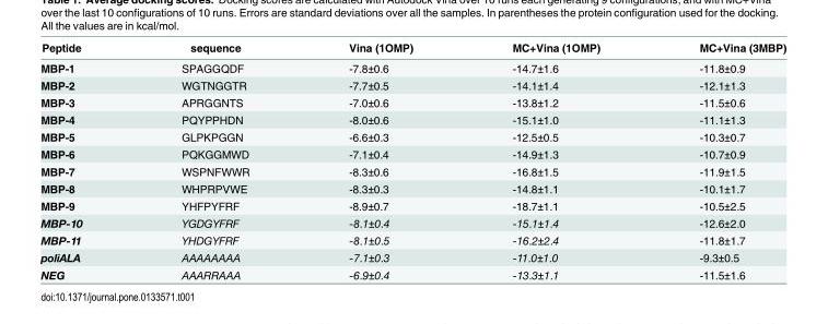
<table><thead><tr><td>Peptide</td><td>sequence</td><td>Vina (1OMP)</td><td>MC+Vina (1OMP)</td><td>MC+Vina (3MBP)</td></tr></thead><tbody><tr><td>MBP-1</td><td>SPAGGQDF</td><td>-7.8±0.6</td><td>-14.7±1.6</td><td>-11.8±0.9</td></tr><tr><td>MBP-2</td><td>WGTNGGTR</td><td>-7.7±0.5</td><td>-14.1±1.4</td><td>-12.1±1.3</td></tr><tr><td>MBP-3</td><td>APRGGNTS</td><td>-7.0±0.6</td><td>-13.8±1.2</td><td>-11.5±0.6</td></tr><tr><td>MBP-4</td><td>PQYPPHDN</td><td>-8.0±0.6</td><td>-15.1±1.0</td><td>-11.1±1.3</td></tr><tr><td>MBP-5</td><td>GLPKPGGN</td><td>-6.6±0.3</td><td>-12.5±0.5</td><td>-10.3±0.7</td></tr><tr><td>MBP-6</td><td>PQKGGMWD</td><td>-7.1±0.4</td><td>-14.9±1.3</td><td>-10.7±0.9</td></tr><tr><td>MBP-7</td><td>WSPNFWWR</td><td>-8.3±0.6</td><td>-16.8±1.5</td><td>-11.9±1.5</td></tr><tr><td>MBP-8</td><td>WHPRPVWE</td><td>-8.3±0.3</td><td>-14.8±1.1</td><td>-10.1±1.7</td></tr><tr><td>MBP-9</td><td>YHFPYFRF</td><td>-8.9±0.7</td><td>-18.7±1.1</td><td>-10.5±2.5</td></tr><tr><td>MBP-10</td><td>YGDGYFRF</td><td>-8.1±0.4</td><td>-15.1±1.4</td><td>-12.6±2.0</td></tr><tr><td>MBP-11</td><td>YHDGYFRF</td><td>-8.1±0.5</td><td>-16.2±2.4</td><td>-11.8±1.7</td></tr><tr><td>poliALA</td><td>AAAAAAAA</td><td>-7.1±0.3</td><td>-11.0±1.0</td><td>-9.3±0.5</td></tr><tr><td>NEG</td><td>AAARRAAA</td><td>-6.9±0.4</td><td>-13.3±1.1</td><td>-11.5±1.6</td></tr></tbody></table>